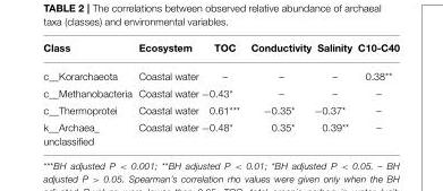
<table><thead><tr><td>Class</td><td>Ecosystem</td><td>TOC</td><td>Conductivity</td><td>Salinity</td><td>C10-C40</td></tr></thead><tbody><tr><td>c__Korarchaeota</td><td>Coastal water</td><td>–</td><td>–</td><td>–</td><td>0.38**</td></tr><tr><td>c__Methanobacteria</td><td>Coastal water</td><td>−0.43*</td><td>–</td><td>–</td><td>–</td></tr><tr><td>c__Thermoprotei</td><td>Coastal water</td><td>0.61***</td><td>−0.35*</td><td>−0.37*</td><td>–</td></tr><tr><td>k__Archaea_ unclassified</td><td>Coastal water</td><td>−0.48*</td><td>0.35*</td><td>0.39**</td><td>–</td></tr></tbody></table>